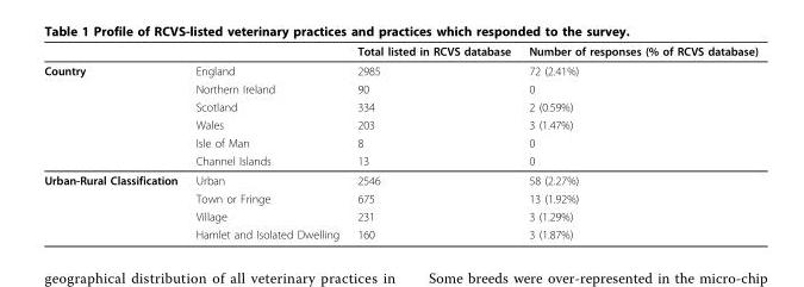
<table><thead><tr><td></td><td></td><td>Total listed in RCVS database</td><td>Number of responses (% of RCVS database)</td></tr></thead><tbody><tr><td rowspan="6">Country</td><td>England</td><td>2985</td><td>72 (2.41%)</td></tr><tr><td>Northern Ireland</td><td>90</td><td>0</td></tr><tr><td>Scotland</td><td>334</td><td>2 (0.59%)</td></tr><tr><td>Wales</td><td>203</td><td>3 (1.47%)</td></tr><tr><td>Isle of Man</td><td>8</td><td>0</td></tr><tr><td>Channel Islands</td><td>13</td><td>0</td></tr><tr><td rowspan="4">Urban-Rural Classification</td><td>Urban</td><td>2546</td><td>58 (2.27%)</td></tr><tr><td>Town or Fringe</td><td>675</td><td>13 (1.92%)</td></tr><tr><td>Village</td><td>231</td><td>3 (1.29%)</td></tr><tr><td>Hamlet and Isolated Dwelling</td><td>160</td><td>3 (1.87%)</td></tr></tbody></table>